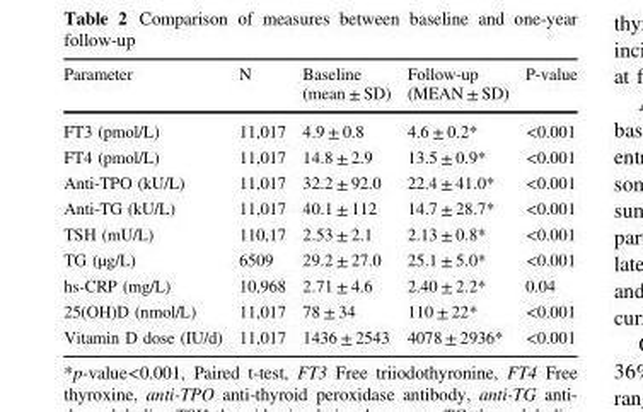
<table><thead><tr><td>Parameter</td><td>N</td><td>Baseline (mean ± SD)</td><td>Follow-up (MEAN ± SD)</td><td>P-value</td></tr></thead><tbody><tr><td>FT3 (pmol/L)</td><td>11,017</td><td>4.9 ± 0.8</td><td>4.6 ± 0.2*</td><td>&lt;0.001</td></tr><tr><td>FT4 (pmol/L)</td><td>11,017</td><td>14.8 ± 2.9</td><td>13.5 ± 0.9*</td><td>&lt;0.001</td></tr><tr><td>Anti-TPO (kU/L)</td><td>11,017</td><td>32.2 ± 92.0</td><td>22.4 ± 41.0*</td><td>&lt;0.001</td></tr><tr><td>Anti-TG (kU/L)</td><td>11,017</td><td>40.1 ± 112</td><td>14.7 ± 28.7*</td><td>&lt;0.001</td></tr><tr><td>TSH (mU/L)</td><td>110,17</td><td>2.53 ± 2.1</td><td>2.13 ± 0.8*</td><td>&lt;0.001</td></tr><tr><td>TG (µg/L)</td><td>6509</td><td>29.2 ± 27.0</td><td>25.1 ± 5.0*</td><td>&lt;0.001</td></tr><tr><td>hs-CRP (mg/L)</td><td>10,968</td><td>2.71 ± 4.6</td><td>2.40 ± 2.2*</td><td>0.04</td></tr><tr><td>25(OH)D (nmol/L)</td><td>11,017</td><td>78 ± 34</td><td>110 ± 22*</td><td>&lt;0.001</td></tr><tr><td>Vitamin D dose (IU/d)</td><td>11,017</td><td>1436 ± 2543</td><td>4078 ± 2936*</td><td>&lt;0.001</td></tr></tbody></table>